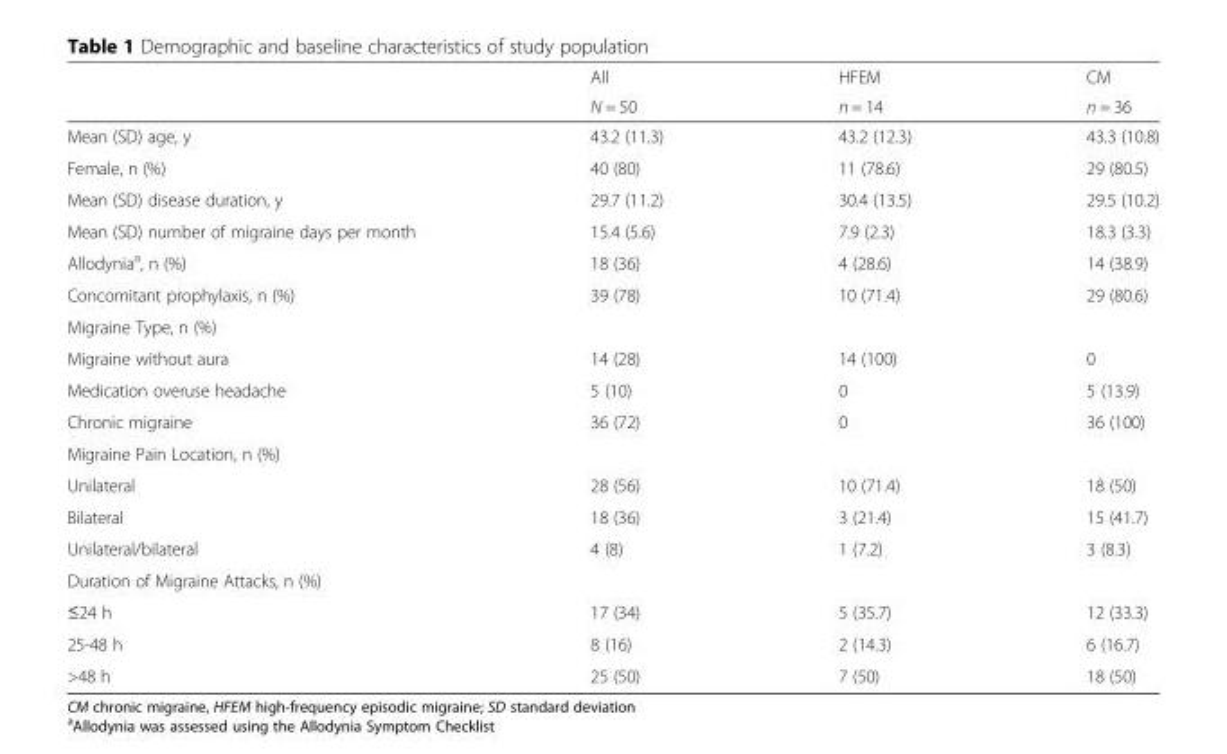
<table><thead><tr><td rowspan="2"></td><td rowspan="2">All N = 50</td><td rowspan="2">HFEM n = 14</td><td rowspan="2">CM n = 36</td></tr><tr></tr></thead><tbody><tr><td>Mean (SD) age, y</td><td>43.2 (11.3)</td><td>43.2 (12.3)</td><td>43.3 (10.8)</td></tr><tr><td>Female, n (%)</td><td>40 (80)</td><td>11 (78.6)</td><td>29 (80.5)</td></tr><tr><td>Mean (SD) disease duration, y</td><td>29.7 (11.2)</td><td>30.4 (13.5)</td><td>29.5 (10.2)</td></tr><tr><td>Mean (SD) number of migraine days per month</td><td>15.4 (5.6)</td><td>7.9 (2.3)</td><td>18.3 (3.3)</td></tr><tr><td>Allodynia<sup>a</sup>, n (%)</td><td>18 (36)</td><td>4 (28.6)</td><td>14 (38.9)</td></tr><tr><td>Concomitant prophylaxis, n (%)</td><td>39 (78)</td><td>10 (71.4)</td><td>29 (80.6)</td></tr><tr><td colspan="4">Migraine Type, n (%)</td></tr><tr><td>Migraine without aura</td><td>14 (28)</td><td>14 (100)</td><td>0</td></tr><tr><td>Medication overuse headache</td><td>5 (10)</td><td>0</td><td>5 (13.9)</td></tr><tr><td>Chronic migraine</td><td>36 (72)</td><td>0</td><td>36 (100)</td></tr><tr><td colspan="4">Migraine Pain Location, n (%)</td></tr><tr><td>Unilateral</td><td>28 (56)</td><td>10 (71.4)</td><td>18 (50)</td></tr><tr><td>Bilateral</td><td>18 (36)</td><td>3 (21.4)</td><td>15 (41.7)</td></tr><tr><td>Unilateral/bilateral</td><td>4 (8)</td><td>1 (7.2)</td><td>3 (8.3)</td></tr><tr><td colspan="4">Duration of Migraine Attacks, n (%)</td></tr><tr><td>≤24 h</td><td>17 (34)</td><td>5 (35.7)</td><td>12 (33.3)</td></tr><tr><td>25-48 h</td><td>8 (16)</td><td>2 (14.3)</td><td>6 (16.7)</td></tr><tr><td>&gt;48 h</td><td>25 (50)</td><td>7 (50)</td><td>18 (50)</td></tr></tbody></table>